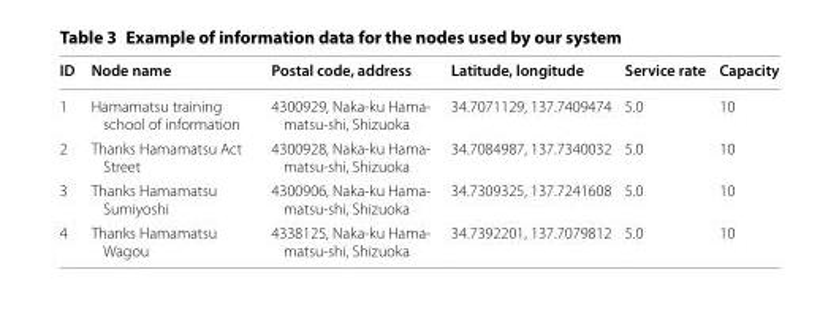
<table><thead><tr><td>ID</td><td>Node name</td><td>Postal code, address</td><td>Latitude, longitude</td><td>Service rate</td><td>Capacity</td></tr></thead><tbody><tr><td>1</td><td>Hamamatsu training school of information</td><td>4300929, Naka‑ku Hama‑ matsu‑shi, Shizuoka</td><td>34.7071129, 137.7409474</td><td>5.0</td><td>10</td></tr><tr><td>2</td><td>Thanks Hamamatsu Act Street</td><td>4300928, Naka‑ku Hama‑ matsu‑shi, Shizuoka</td><td>34.7084987, 137.7340032</td><td>5.0</td><td>10</td></tr><tr><td>3</td><td>Thanks Hamamatsu Sumiyoshi</td><td>4300906, Naka‑ku Hama‑ matsu‑shi, Shizuoka</td><td>34.7309325, 137.7241608</td><td>5.0</td><td>10</td></tr><tr><td>4</td><td>Thanks Hamamatsu Wagou</td><td>4338125, Naka‑ku Hama‑ matsu‑shi, Shizuoka</td><td>34.7392201, 137.7079812</td><td>5.0</td><td>10</td></tr></tbody></table>